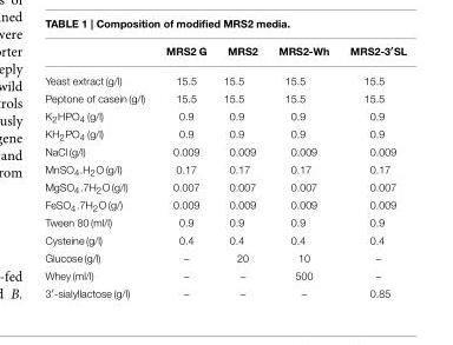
<table><thead><tr><td></td><td>MRS2 G</td><td>MRS2</td><td>MRS2-Wh</td><td>MRS2-3′SL</td></tr></thead><tbody><tr><td>Yeast extract (g/l)</td><td>15.5</td><td>15.5</td><td>15.5</td><td>15.5</td></tr><tr><td>Peptone of casein (g/l)</td><td>15.5</td><td>15.5</td><td>15.5</td><td>15.5</td></tr><tr><td>K<sub>2</sub>HPO<sub>4</sub> (g/l)</td><td>0.9</td><td>0.9</td><td>0.9</td><td>0.9</td></tr><tr><td>KH<sub>2</sub>PO<sub>4</sub> (g/l)</td><td>0.9</td><td>0.9</td><td>0.9</td><td>0.9</td></tr><tr><td>NaCl (g/l)</td><td>0.009</td><td>0.009</td><td>0.009</td><td>0.009</td></tr><tr><td>MnSO<sub>4</sub>.H<sub>2</sub>O (g/l)</td><td>0.17</td><td>0.17</td><td>0.17</td><td>0.17</td></tr><tr><td>MgSO<sub>4</sub>.7H<sub>2</sub>O (g/l)</td><td>0.007</td><td>0.007</td><td>0.007</td><td>0.007</td></tr><tr><td>FeSO<sub>4</sub>.7H<sub>2</sub>O (g/)</td><td>0.009</td><td>0.009</td><td>0.009</td><td>0.009</td></tr><tr><td>Tween 80 (ml/l)</td><td>0.9</td><td>0.9</td><td>0.9</td><td>0.9</td></tr><tr><td>Cysteine (g/l)</td><td>0.4</td><td>0.4</td><td>0.4</td><td>0.4</td></tr><tr><td>Glucose (g/l)</td><td>–</td><td>20</td><td>10</td><td>–</td></tr><tr><td>Whey (ml/l)</td><td>–</td><td>–</td><td>500</td><td>–</td></tr><tr><td>3′-sialyllactose (g/l)</td><td>–</td><td>–</td><td>–</td><td>0.85</td></tr></tbody></table>